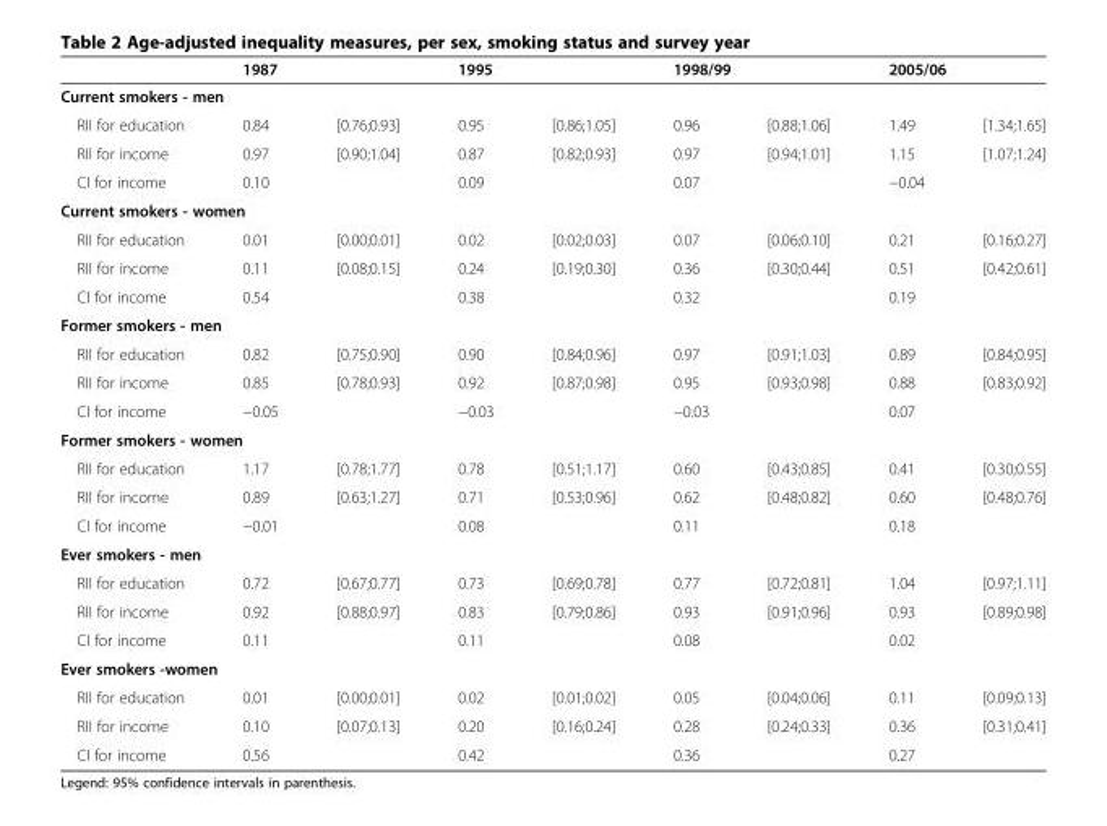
<table><thead><tr><td></td><td colspan="2">1987</td><td colspan="2">1995</td><td colspan="2">1998/99</td><td colspan="2">2005/06</td></tr><tr><td colspan="9">Current smokers - men</td></tr><tr><td>RII for education</td><td>0.84</td><td>[0.76;0.93]</td><td>0.95</td><td>[0.86;1.05]</td><td>0.96</td><td>[0.88;1.06]</td><td>1.49</td><td>[1.34;1.65]</td></tr></thead><tbody><tr><td>RII for income</td><td>0.97</td><td>[0.90;1.04]</td><td>0.87</td><td>[0.82;0.93]</td><td>0.97</td><td>[0.94;1.01]</td><td>1.15</td><td>[1.07;1.24]</td></tr><tr><td>CI for income</td><td>0.10</td><td></td><td>0.09</td><td></td><td>0.07</td><td></td><td>−0.04</td><td></td></tr><tr><td colspan="9">Current smokers - women</td></tr><tr><td>RII for education</td><td>0.01</td><td>[0.00;0.01]</td><td>0.02</td><td>[0.02;0.03]</td><td>0.07</td><td>[0.06;0.10]</td><td>0.21</td><td>[0.16;0.27]</td></tr><tr><td>RII for income</td><td>0.11</td><td>[0.08;0.15]</td><td>0.24</td><td>[0.19;0.30]</td><td>0.36</td><td>[0.30;0.44]</td><td>0.51</td><td>[0.42;0.61]</td></tr><tr><td>CI for income</td><td>0.54</td><td></td><td>0.38</td><td></td><td>0.32</td><td></td><td>0.19</td><td></td></tr><tr><td colspan="9">Former smokers - men</td></tr><tr><td>RII for education</td><td>0.82</td><td>[0.75;0.90]</td><td>0.90</td><td>[0.84;0.96]</td><td>0.97</td><td>[0.91;1.03]</td><td>0.89</td><td>[0.84;0.95]</td></tr><tr><td>RII for income</td><td>0.85</td><td>[0.78;0.93]</td><td>0.92</td><td>[0.87;0.98]</td><td>0.95</td><td>[0.93;0.98]</td><td>0.88</td><td>[0.83;0.92]</td></tr><tr><td>CI for income</td><td>−0.05</td><td></td><td>−0.03</td><td></td><td>−0.03</td><td></td><td>0.07</td><td></td></tr><tr><td colspan="9">Former smokers - women</td></tr><tr><td>RII for education</td><td>1.17</td><td>[0.78;1.77]</td><td>0.78</td><td>[0.51;1.17]</td><td>0.60</td><td>[0.43;0.85]</td><td>0.41</td><td>[0.30;0.55]</td></tr><tr><td>RII for income</td><td>0.89</td><td>[0.63;1.27]</td><td>0.71</td><td>[0.53;0.96]</td><td>0.62</td><td>[0.48;0.82]</td><td>0.60</td><td>[0.48;0.76]</td></tr><tr><td>CI for income</td><td>−0.01</td><td></td><td>0.08</td><td></td><td>0.11</td><td></td><td>0.18</td><td></td></tr><tr><td colspan="9">Ever smokers - men</td></tr><tr><td>RII for education</td><td>0.72</td><td>[0.67;0.77]</td><td>0.73</td><td>[0.69;0.78]</td><td>0.77</td><td>[0.72;0.81]</td><td>1.04</td><td>[0.97;1.11]</td></tr><tr><td>RII for income</td><td>0.92</td><td>[0.88;0.97]</td><td>0.83</td><td>[0.79;0.86]</td><td>0.93</td><td>[0.91;0.96]</td><td>0.93</td><td>[0.89;0.98]</td></tr><tr><td>CI for income</td><td>0.11</td><td></td><td>0.11</td><td></td><td>0.08</td><td></td><td>0.02</td><td></td></tr><tr><td colspan="9">Ever smokers -women</td></tr><tr><td>RII for education</td><td>0.01</td><td>[0.00;0.01]</td><td>0.02</td><td>[0.01;0.02]</td><td>0.05</td><td>[0.04;0.06]</td><td>0.11</td><td>[0.09;0.13]</td></tr><tr><td>RII for income</td><td>0.10</td><td>[0.07;0.13]</td><td>0.20</td><td>[0.16;0.24]</td><td>0.28</td><td>[0.24;0.33]</td><td>0.36</td><td>[0.31;0.41]</td></tr><tr><td>CI for income</td><td>0.56</td><td></td><td>0.42</td><td></td><td>0.36</td><td></td><td>0.27</td><td></td></tr></tbody></table>